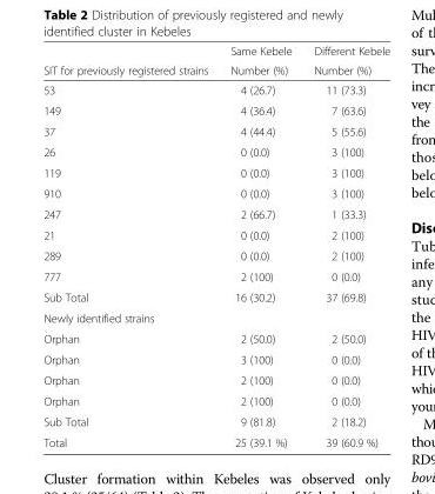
<table><thead><tr><td rowspan="2">SIT for previously registered strains</td><td rowspan="2">Same Kebele Number (%)</td><td rowspan="2">Different Kebele Number (%)</td></tr><tr></tr></thead><tbody><tr><td>53</td><td>4 (26.7)</td><td>11 (73.3)</td></tr><tr><td>149</td><td>4 (36.4)</td><td>7 (63.6)</td></tr><tr><td>37</td><td>4 (44.4)</td><td>5 (55.6)</td></tr><tr><td>26</td><td>0 (0.0)</td><td>3 (100)</td></tr><tr><td>119</td><td>0 (0.0)</td><td>3 (100)</td></tr><tr><td>910</td><td>0 (0.0)</td><td>3 (100)</td></tr><tr><td>247</td><td>2 (66.7)</td><td>1 (33.3)</td></tr><tr><td>21</td><td>0 (0.0)</td><td>2 (100)</td></tr><tr><td>289</td><td>0 (0.0)</td><td>2 (100)</td></tr><tr><td>777</td><td>2 (100)</td><td>0 (0.0)</td></tr><tr><td>Sub Total</td><td>16 (30.2)</td><td>37 (69.8)</td></tr><tr><td colspan="3">Newly identified strains</td></tr><tr><td>Orphan</td><td>2 (50.0)</td><td>2 (50.0)</td></tr><tr><td>Orphan</td><td>3 (100)</td><td>0 (0.0)</td></tr><tr><td>Orphan</td><td>2 (100)</td><td>0 (0.0)</td></tr><tr><td>Orphan</td><td>2 (100)</td><td>0 (0.0)</td></tr><tr><td>Sub Total</td><td>9 (81.8)</td><td>2 (18.2)</td></tr><tr><td>Total</td><td>25 (39.1 %)</td><td>39 (60.9 %)</td></tr></tbody></table>